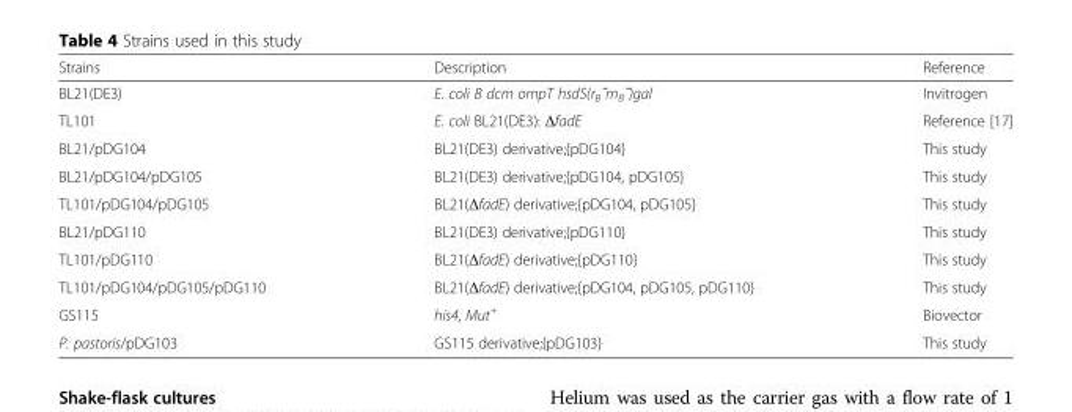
<table><thead><tr><td>Strains</td><td>Description</td><td>Reference</td></tr></thead><tbody><tr><td>BL21(DE3)</td><td>E. coli B dcm ompT hsdS(r<sub>B</sub>ˉm<sub>B</sub>ˉ)gal</td><td>Invitrogen</td></tr><tr><td>TL101</td><td>E. coli BL21(DE3): ΔfadE</td><td>Reference [17]</td></tr><tr><td>BL21/pDG104</td><td>BL21(DE3) derivative;{pDG104}</td><td>This study</td></tr><tr><td>BL21/pDG104/pDG105</td><td>BL21(DE3) derivative;{pDG104, pDG105}</td><td>This study</td></tr><tr><td>TL101/pDG104/pDG105</td><td>BL21(ΔfadE) derivative;{pDG104, pDG105}</td><td>This study</td></tr><tr><td>BL21/pDG110</td><td>BL21(DE3) derivative;{pDG110}</td><td>This study</td></tr><tr><td>TL101/pDG110</td><td>BL21(ΔfadE) derivative;{pDG110}</td><td>This study</td></tr><tr><td>TL101/pDG104/pDG105/pDG110</td><td>BL21(ΔfadE) derivative;{pDG104, pDG105, pDG110}</td><td>This study</td></tr><tr><td>GS115</td><td>his4, Mut<sup>+</sup></td><td>Biovector</td></tr><tr><td>P. pastoris/pDG103</td><td>GS115 derivative;{pDG103}</td><td>This study</td></tr></tbody></table>